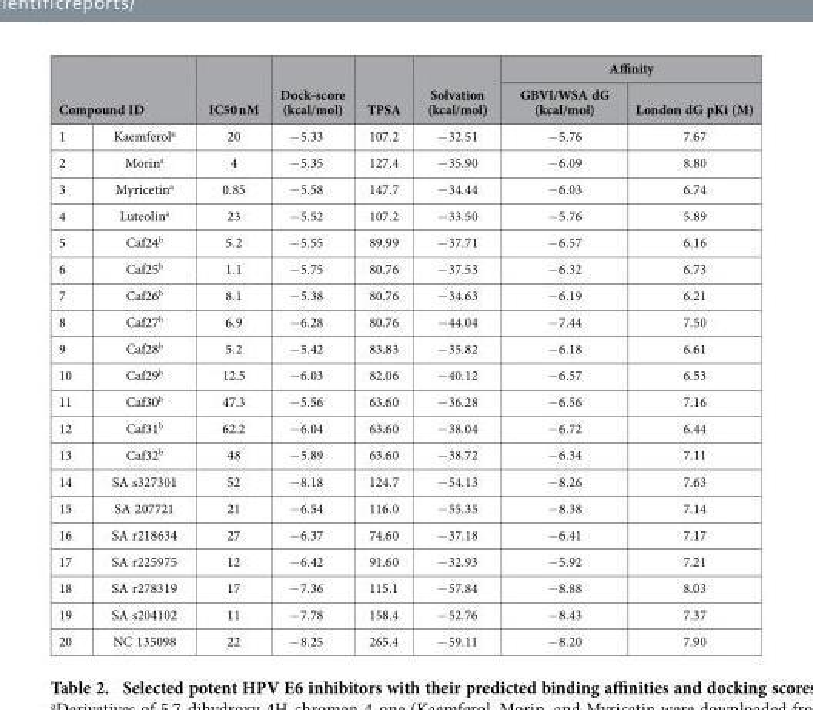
<table><thead><tr><td></td><td></td><td rowspan="2">IC50 nM</td><td rowspan="2">Dock-score (kcal/mol)</td><td rowspan="2">TPSA</td><td rowspan="2">Solvation (kcal/mol)</td><td colspan="2">Affinity</td></tr><tr><td colspan="2">Compound ID</td><td>GBVI/WSA dG (kcal/mol)</td><td>London dG pKi (M)</td></tr></thead><tbody><tr><td>1</td><td>Kaemferol<sup>a</sup></td><td>20</td><td>− 5.33</td><td>107.2</td><td>− 32.51</td><td>− 5.76</td><td>7.67</td></tr><tr><td>2</td><td>Morin<sup>a</sup></td><td>4</td><td>− 5.35</td><td>127.4</td><td>− 35.90</td><td>− 6.09</td><td>8.80</td></tr><tr><td>3</td><td>Myricetin<sup>a</sup></td><td>0.85</td><td>− 5.58</td><td>147.7</td><td>− 34.44</td><td>− 6.03</td><td>6.74</td></tr><tr><td>4</td><td>Luteolin<sup>a</sup></td><td>23</td><td>− 5.52</td><td>107.2</td><td>− 33.50</td><td>− 5.76</td><td>5.89</td></tr><tr><td>5</td><td>Caf24<sup>b</sup></td><td>5.2</td><td>− 5.55</td><td>89.99</td><td>− 37.71</td><td>− 6.57</td><td>6.16</td></tr><tr><td>6</td><td>Caf25<sup>b</sup></td><td>1.1</td><td>− 5.75</td><td>80.76</td><td>− 37.53</td><td>− 6.32</td><td>6.73</td></tr><tr><td>7</td><td>Caf26<sup>b</sup></td><td>8.1</td><td>− 5.38</td><td>80.76</td><td>− 34.63</td><td>− 6.19</td><td>6.21</td></tr><tr><td>8</td><td>Caf27<sup>b</sup></td><td>6.9</td><td>− 6.28</td><td>80.76</td><td>− 44.04</td><td>− 7.44</td><td>7.50</td></tr><tr><td>9</td><td>Caf28<sup>b</sup></td><td>5.2</td><td>− 5.42</td><td>83.83</td><td>− 35.82</td><td>− 6.18</td><td>6.61</td></tr><tr><td>10</td><td>Caf29<sup>b</sup></td><td>12.5</td><td>− 6.03</td><td>82.06</td><td>− 40.12</td><td>− 6.57</td><td>6.53</td></tr><tr><td>11</td><td>Caf30<sup>b</sup></td><td>47.3</td><td>− 5.56</td><td>63.60</td><td>− 36.28</td><td>− 6.56</td><td>7.16</td></tr><tr><td>12</td><td>Caf31<sup>b</sup></td><td>62.2</td><td>− 6.04</td><td>63.60</td><td>− 38.04</td><td>− 6.72</td><td>6.44</td></tr><tr><td>13</td><td>Caf32<sup>b</sup></td><td>48</td><td>− 5.89</td><td>63.60</td><td>− 38.72</td><td>− 6.34</td><td>7.11</td></tr><tr><td>14</td><td>SA s327301</td><td>52</td><td>− 8.18</td><td>124.7</td><td>− 54.13</td><td>− 8.26</td><td>7.63</td></tr><tr><td>15</td><td>SA 207721</td><td>21</td><td>− 6.54</td><td>116.0</td><td>− 55.35</td><td>− 8.38</td><td>7.14</td></tr><tr><td>16</td><td>SA r218634</td><td>27</td><td>− 6.37</td><td>74.60</td><td>− 37.18</td><td>− 6.41</td><td>7.17</td></tr><tr><td>17</td><td>SA r225975</td><td>12</td><td>− 6.42</td><td>91.60</td><td>− 32.93</td><td>− 5.92</td><td>7.21</td></tr><tr><td>18</td><td>SA r278319</td><td>17</td><td>− 7.36</td><td>115.1</td><td>− 57.84</td><td>− 8.88</td><td>8.03</td></tr><tr><td>19</td><td>SA s204102</td><td>11</td><td>− 7.78</td><td>158.4</td><td>− 52.76</td><td>− 8.43</td><td>7.37</td></tr><tr><td>20</td><td>NC 135098</td><td>22</td><td>− 8.25</td><td>265.4</td><td>− 59.11</td><td>− 8.20</td><td>7.90</td></tr></tbody></table>